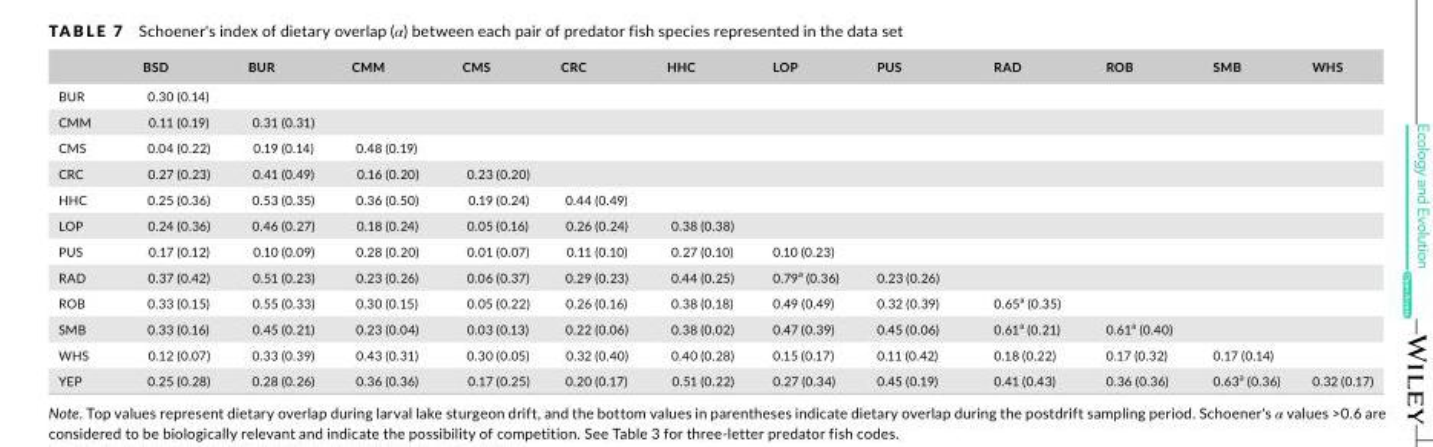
<table><thead><tr><td></td><td>BSD</td><td>BUR</td><td>CMM</td><td>CMS</td><td>CRC</td><td>HHC</td><td>LOP</td><td>PUS</td><td>RAD</td><td>ROB</td><td>SMB</td><td>WHS</td></tr></thead><tbody><tr><td>BUR</td><td>0.30 (0.14)</td><td></td><td></td><td></td><td></td><td></td><td></td><td></td><td></td><td></td><td></td><td></td></tr><tr><td>CMM</td><td>0.11 (0.19)</td><td>0.31 (0.31)</td><td></td><td></td><td></td><td></td><td></td><td></td><td></td><td></td><td></td><td></td></tr><tr><td>CMS</td><td>0.04 (0.22)</td><td>0.19 (0.14)</td><td>0.48 (0.19)</td><td></td><td></td><td></td><td></td><td></td><td></td><td></td><td></td><td></td></tr><tr><td>CRC</td><td>0.27 (0.23)</td><td>0.41 (0.49)</td><td>0.16 (0.20)</td><td>0.23 (0.20)</td><td></td><td></td><td></td><td></td><td></td><td></td><td></td><td></td></tr><tr><td>HHC</td><td>0.25 (0.36)</td><td>0.53 (0.35)</td><td>0.36 (0.50)</td><td>0.19 (0.24)</td><td>0.44 (0.49)</td><td></td><td></td><td></td><td></td><td></td><td></td><td></td></tr><tr><td>LOP</td><td>0.24 (0.36)</td><td>0.46 (0.27)</td><td>0.18 (0.24)</td><td>0.05 (0.16)</td><td>0.26 (0.24)</td><td>0.38 (0.38)</td><td></td><td></td><td></td><td></td><td></td><td></td></tr><tr><td>PUS</td><td>0.17 (0.12)</td><td>0.10 (0.09)</td><td>0.28 (0.20)</td><td>0.01 (0.07)</td><td>0.11 (0.10)</td><td>0.27 (0.10)</td><td>0.10 (0.23)</td><td></td><td></td><td></td><td></td><td></td></tr><tr><td>RAD</td><td>0.37 (0.42)</td><td>0.51 (0.23)</td><td>0.23 (0.26)</td><td>0.06 (0.37)</td><td>0.29 (0.23)</td><td>0.44 (0.25)</td><td>0.79<sup>a</sup> (0.36)</td><td>0.23 (0.26)</td><td></td><td></td><td></td><td></td></tr><tr><td>ROB</td><td>0.33 (0.15)</td><td>0.55 (0.33)</td><td>0.30 (0.15)</td><td>0.05 (0.22)</td><td>0.26 (0.16)</td><td>0.38 (0.18)</td><td>0.49 (0.49)</td><td>0.32 (0.39)</td><td>0.65<sup>a</sup> (0.35)</td><td></td><td></td><td></td></tr><tr><td>SMB</td><td>0.33 (0.16)</td><td>0.45 (0.21)</td><td>0.23 (0.04)</td><td>0.03 (0.13)</td><td>0.22 (0.06)</td><td>0.38 (0.02)</td><td>0.47 (0.39)</td><td>0.45 (0.06)</td><td>0.61<sup>a</sup> (0.21)</td><td>0.61<sup>a</sup> (0.40)</td><td></td><td></td></tr><tr><td>WHS</td><td>0.12 (0.07)</td><td>0.33 (0.39)</td><td>0.43 (0.31)</td><td>0.30 (0.05)</td><td>0.32 (0.40)</td><td>0.40 (0.28)</td><td>0.15 (0.17)</td><td>0.11 (0.42)</td><td>0.18 (0.22)</td><td>0.17 (0.32)</td><td>0.17 (0.14)</td><td></td></tr><tr><td>YEP</td><td>0.25 (0.28)</td><td>0.28 (0.26)</td><td>0.36 (0.36)</td><td>0.17 (0.25)</td><td>0.20 (0.17)</td><td>0.51 (0.22)</td><td>0.27 (0.34)</td><td>0.45 (0.19)</td><td>0.41 (0.43)</td><td>0.36 (0.36)</td><td>0.63<sup>a</sup> (0.36)</td><td>0.32 (0.17)</td></tr></tbody></table>